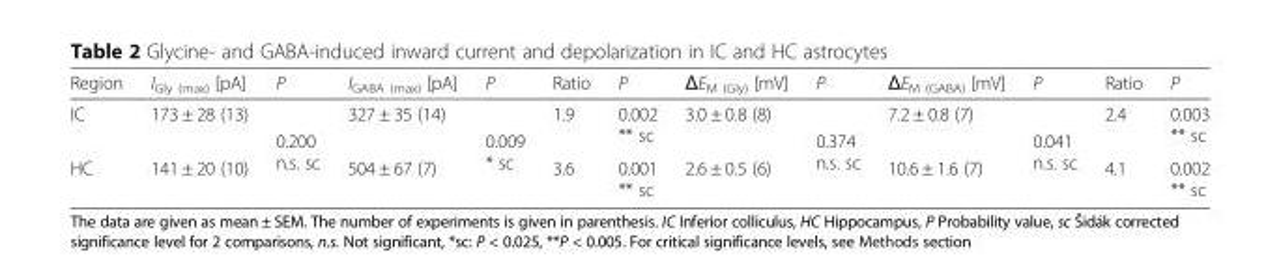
<table><thead><tr><td>Region</td><td>I<sub>Gly (max)</sub> [pA]</td><td>P</td><td>I<sub>GABA (max)</sub> [pA]</td><td>P</td><td>Ratio</td><td>P</td><td>ΔE<sub>M (Gly)</sub> [mV]</td><td>P</td><td>ΔE<sub>M (GABA)</sub> [mV]</td><td>P</td><td>Ratio</td><td>P</td></tr></thead><tbody><tr><td>IC</td><td>173 ± 28 (13)</td><td rowspan="2">0.200 n.s. sc</td><td>327 ± 35 (14)</td><td rowspan="2">0.009 * sc</td><td>1.9</td><td>0.002 ** sc</td><td>3.0 ± 0.8 (8)</td><td rowspan="2">0.374 n.s. sc</td><td>7.2 ± 0.8 (7)</td><td rowspan="2">0.041 n.s. sc</td><td>2.4</td><td>0.003 ** sc</td></tr><tr><td>HC</td><td>141 ± 20 (10)</td><td>504 ± 67 (7)</td><td>3.6</td><td>0.001 ** sc</td><td>2.6 ± 0.5 (6)</td><td>10.6 ± 1.6 (7)</td><td>4.1</td><td>0.002 ** sc</td></tr></tbody></table>